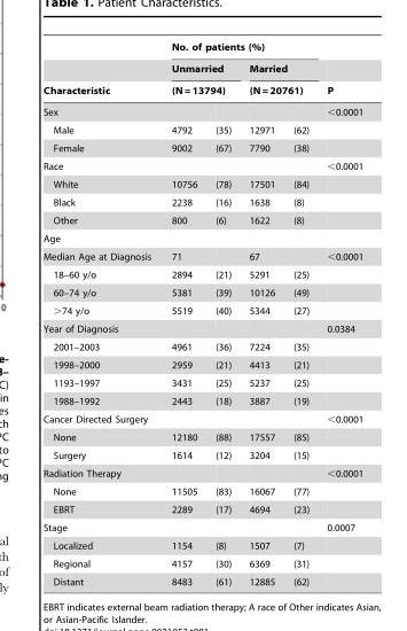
<table><thead><tr><td rowspan="4">Characteristic Sex</td><td colspan="4">No. of patients (%)</td><td rowspan="4">P &lt;0.0001</td></tr><tr><td rowspan="2" colspan="2">Unmarried (N = 13794)</td><td rowspan="2" colspan="2">Married (N = 20761)</td></tr><tr></tr><tr><td></td><td></td><td></td><td></td></tr></thead><tbody><tr><td>Male</td><td>4792</td><td>(35)</td><td>12971</td><td>(62)</td><td></td></tr><tr><td>Female</td><td>9002</td><td>(67)</td><td>7790</td><td>(38)</td><td></td></tr><tr><td>Race</td><td></td><td></td><td></td><td></td><td>&lt;0.0001</td></tr><tr><td>White</td><td>10756</td><td>(78)</td><td>17501</td><td>(84)</td><td></td></tr><tr><td>Black</td><td>2238</td><td>(16)</td><td>1638</td><td>(8)</td><td></td></tr><tr><td>Other</td><td>800</td><td>(6)</td><td>1622</td><td>(8)</td><td></td></tr><tr><td colspan="6">Age</td></tr><tr><td>Median Age at Diagnosis</td><td>71</td><td></td><td>67</td><td></td><td>&lt;0.0001</td></tr><tr><td>18–60 y/o</td><td>2894</td><td>(21)</td><td>5291</td><td>(25)</td><td></td></tr><tr><td>60–74 y/o</td><td>5381</td><td>(39)</td><td>10126</td><td>(49)</td><td></td></tr><tr><td>&gt;74 y/o</td><td>5519</td><td>(40)</td><td>5344</td><td>(27)</td><td></td></tr><tr><td>Year of Diagnosis</td><td></td><td></td><td></td><td></td><td>0.0384</td></tr><tr><td>2001–2003</td><td>4961</td><td>(36)</td><td>7224</td><td>(35)</td><td></td></tr><tr><td>1998–2000</td><td>2959</td><td>(21)</td><td>4413</td><td>(21)</td><td></td></tr><tr><td>1193–1997</td><td>3431</td><td>(25)</td><td>5237</td><td>(25)</td><td></td></tr><tr><td>1988–1992</td><td>2443</td><td>(18)</td><td>3887</td><td>(19)</td><td></td></tr><tr><td>Cancer Directed Surgery</td><td></td><td></td><td></td><td></td><td>&lt;0.0001</td></tr><tr><td>None</td><td>12180</td><td>(88)</td><td>17557</td><td>(85)</td><td></td></tr><tr><td>Surgery</td><td>1614</td><td>(12)</td><td>3204</td><td>(15)</td><td></td></tr><tr><td>Radiation Therapy</td><td></td><td></td><td></td><td></td><td>&lt;0.0001</td></tr><tr><td>None</td><td>11505</td><td>(83)</td><td>16067</td><td>(77)</td><td></td></tr><tr><td>EBRT</td><td>2289</td><td>(17)</td><td>4694</td><td>(23)</td><td></td></tr><tr><td>Stage</td><td></td><td></td><td></td><td></td><td>0.0007</td></tr><tr><td>Localized</td><td>1154</td><td>(8)</td><td>1507</td><td>(7)</td><td></td></tr><tr><td>Regional</td><td>4157</td><td>(30)</td><td>6369</td><td>(31)</td><td></td></tr><tr><td>Distant</td><td>8483</td><td>(61)</td><td>12885</td><td>(62)</td><td></td></tr></tbody></table>